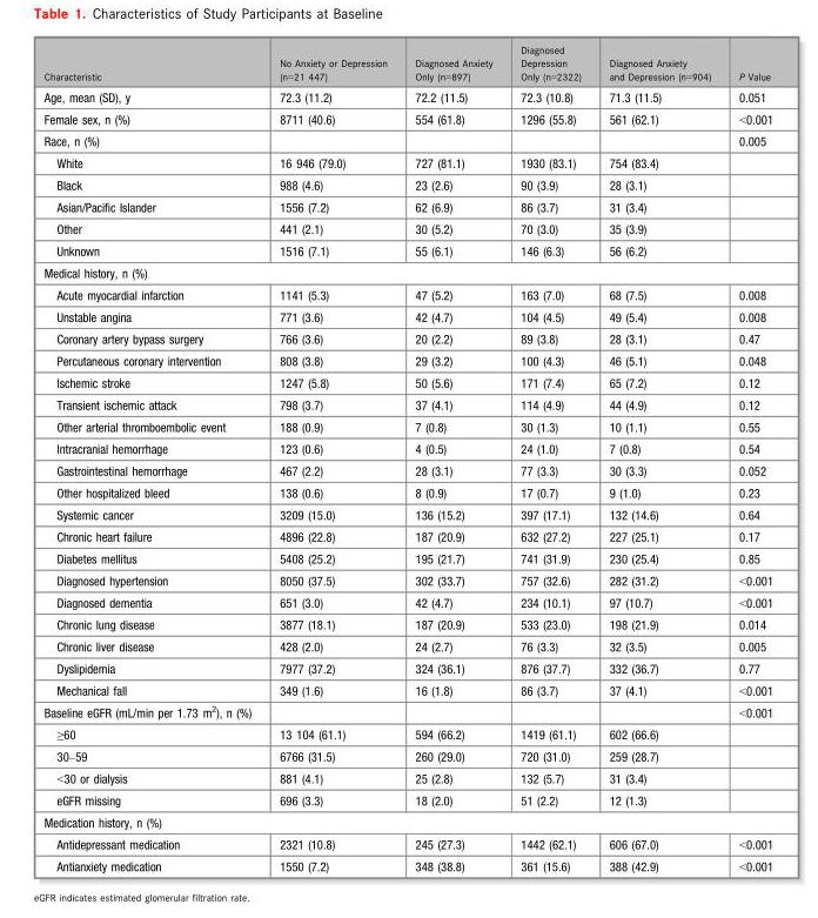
<table><thead><tr><td>Characteristic</td><td>No Anxiety or Depression (n=21 447)</td><td>Diagnosed Anxiety Only (n=897)</td><td>Diagnosed Depression Only (n=2322)</td><td>Diagnosed Anxiety and Depression (n=904)</td><td>P Value</td></tr></thead><tbody><tr><td>Age, mean (SD), y</td><td>72.3 (11.2)</td><td>72.2 (11.5)</td><td>72.3 (10.8)</td><td>71.3 (11.5)</td><td>0.051</td></tr><tr><td>Female sex, n (%)</td><td>8711 (40.6)</td><td>554 (61.8)</td><td>1296 (55.8)</td><td>561 (62.1)</td><td>&lt;0.001</td></tr><tr><td>Race, n (%)</td><td></td><td></td><td></td><td></td><td>0.005</td></tr><tr><td>White</td><td>16 946 (79.0)</td><td>727 (81.1)</td><td>1930 (83.1)</td><td>754 (83.4)</td><td></td></tr><tr><td>Black</td><td>988 (4.6)</td><td>23 (2.6)</td><td>90 (3.9)</td><td>28 (3.1)</td><td></td></tr><tr><td>Asian/Pacific Islander</td><td>1556 (7.2)</td><td>62 (6.9)</td><td>86 (3.7)</td><td>31 (3.4)</td><td></td></tr><tr><td>Other</td><td>441 (2.1)</td><td>30 (5.2)</td><td>70 (3.0)</td><td>35 (3.9)</td><td></td></tr><tr><td>Unknown</td><td>1516 (7.1)</td><td>55 (6.1)</td><td>146 (6.3)</td><td>56 (6.2)</td><td></td></tr><tr><td colspan="6">Medical history, n (%)</td></tr><tr><td>Acute myocardial infarction</td><td>1141 (5.3)</td><td>47 (5.2)</td><td>163 (7.0)</td><td>68 (7.5)</td><td>0.008</td></tr><tr><td>Unstable angina</td><td>771 (3.6)</td><td>42 (4.7)</td><td>104 (4.5)</td><td>49 (5.4)</td><td>0.008</td></tr><tr><td>Coronary artery bypass surgery</td><td>766 (3.6)</td><td>20 (2.2)</td><td>89 (3.8)</td><td>28 (3.1)</td><td>0.47</td></tr><tr><td>Percutaneous coronary intervention</td><td>808 (3.8)</td><td>29 (3.2)</td><td>100 (4.3)</td><td>46 (5.1)</td><td>0.048</td></tr><tr><td>Ischemic stroke</td><td>1247 (5.8)</td><td>50 (5.6)</td><td>171 (7.4)</td><td>65 (7.2)</td><td>0.12</td></tr><tr><td>Transient ischemic attack</td><td>798 (3.7)</td><td>37 (4.1)</td><td>114 (4.9)</td><td>44 (4.9)</td><td>0.12</td></tr><tr><td>Other arterial thromboembolic event</td><td>188 (0.9)</td><td>7 (0.8)</td><td>30 (1.3)</td><td>10 (1.1)</td><td>0.55</td></tr><tr><td>Intracranial hemorrhage</td><td>123 (0.6)</td><td>4 (0.5)</td><td>24 (1.0)</td><td>7 (0.8)</td><td>0.54</td></tr><tr><td>Gastrointestinal hemorrhage</td><td>467 (2.2)</td><td>28 (3.1)</td><td>77 (3.3)</td><td>30 (3.3)</td><td>0.052</td></tr><tr><td>Other hospitalized bleed</td><td>138 (0.6)</td><td>8 (0.9)</td><td>17 (0.7)</td><td>9 (1.0)</td><td>0.23</td></tr><tr><td>Systemic cancer</td><td>3209 (15.0)</td><td>136 (15.2)</td><td>397 (17.1)</td><td>132 (14.6)</td><td>0.64</td></tr><tr><td>Chronic heart failure</td><td>4896 (22.8)</td><td>187 (20.9)</td><td>632 (27.2)</td><td>227 (25.1)</td><td>0.17</td></tr><tr><td>Diabetes mellitus</td><td>5408 (25.2)</td><td>195 (21.7)</td><td>741 (31.9)</td><td>230 (25.4)</td><td>0.85</td></tr><tr><td>Diagnosed hypertension</td><td>8050 (37.5)</td><td>302 (33.7)</td><td>757 (32.6)</td><td>282 (31.2)</td><td>&lt;0.001</td></tr><tr><td>Diagnosed dementia</td><td>651 (3.0)</td><td>42 (4.7)</td><td>234 (10.1)</td><td>97 (10.7)</td><td>&lt;0.001</td></tr><tr><td>Chronic lung disease</td><td>3877 (18.1)</td><td>187 (20.9)</td><td>533 (23.0)</td><td>198 (21.9)</td><td>0.014</td></tr><tr><td>Chronic liver disease</td><td>428 (2.0)</td><td>24 (2.7)</td><td>76 (3.3)</td><td>32 (3.5)</td><td>0.005</td></tr><tr><td>Dyslipidemia</td><td>7977 (37.2)</td><td>324 (36.1)</td><td>876 (37.7)</td><td>332 (36.7)</td><td>0.77</td></tr><tr><td>Mechanical fall</td><td>349 (1.6)</td><td>16 (1.8)</td><td>86 (3.7)</td><td>37 (4.1)</td><td>&lt;0.001</td></tr><tr><td>Baseline eGFR (mL/min per 1.73 m<sup>2</sup>), n (%)</td><td></td><td></td><td></td><td></td><td>&lt;0.001</td></tr><tr><td>≥60</td><td>13 104 (61.1)</td><td>594 (66.2)</td><td>1419 (61.1)</td><td>602 (66.6)</td><td></td></tr><tr><td>30–59</td><td>6766 (31.5)</td><td>260 (29.0)</td><td>720 (31.0)</td><td>259 (28.7)</td><td></td></tr><tr><td>&lt;30 or dialysis</td><td>881 (4.1)</td><td>25 (2.8)</td><td>132 (5.7)</td><td>31 (3.4)</td><td></td></tr><tr><td>eGFR missing</td><td>696 (3.3)</td><td>18 (2.0)</td><td>51 (2.2)</td><td>12 (1.3)</td><td></td></tr><tr><td colspan="6">Medication history, n (%)</td></tr><tr><td>Antidepressant medication</td><td>2321 (10.8)</td><td>245 (27.3)</td><td>1442 (62.1)</td><td>606 (67.0)</td><td>&lt;0.001</td></tr><tr><td>Antianxiety medication</td><td>1550 (7.2)</td><td>348 (38.8)</td><td>361 (15.6)</td><td>388 (42.9)</td><td>&lt;0.001</td></tr></tbody></table>